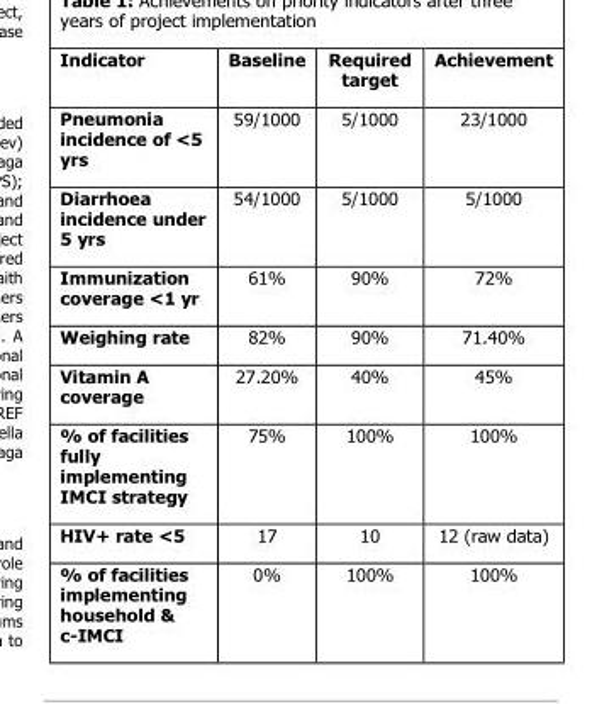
<table><thead><tr><td>Indicator</td><td>Baseline</td><td>Required target</td><td>Achievement</td></tr></thead><tbody><tr><td>Pneumonia incidence of &lt;5 yrs</td><td>59/1000</td><td>5/1000</td><td>23/1000</td></tr><tr><td>Diarrhoea incidence under 5 yrs</td><td>54/1000</td><td>5/1000</td><td>5/1000</td></tr><tr><td>Immunization coverage &lt;1 yr</td><td>61%</td><td>90%</td><td>72%</td></tr><tr><td>Weighing rate</td><td>82%</td><td>90%</td><td>71.40%</td></tr><tr><td>Vitamin A coverage</td><td>27.20%</td><td>40%</td><td>45%</td></tr><tr><td>% of facilities fully implementing IMCI strategy</td><td>75%</td><td>100%</td><td>100%</td></tr><tr><td>HIV+ rate &lt;5</td><td>17</td><td>10</td><td>12 (raw data)</td></tr><tr><td>% of facilities implementing household &amp; c-IMCI</td><td>0%</td><td>100%</td><td>100%</td></tr></tbody></table>